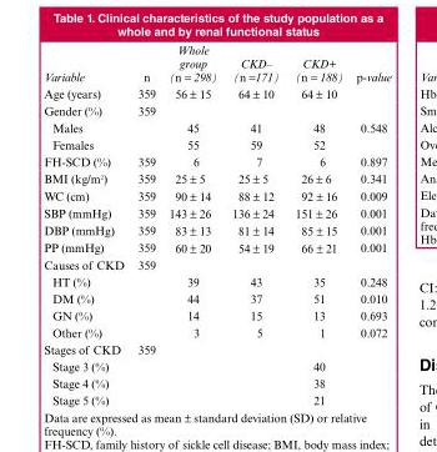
<table><thead><tr><td>Variable</td><td>n</td><td>Whole group (n = 298)</td><td>CKD– (n =171)</td><td>CKD+ (n = 188)</td><td>p-value</td></tr></thead><tbody><tr><td>Age (years)</td><td>359</td><td>56 ± 15</td><td>64 ± 10</td><td>64 ± 10</td><td></td></tr><tr><td>Gender (%)</td><td>359</td><td></td><td></td><td></td><td></td></tr><tr><td>Males</td><td></td><td>45</td><td>41</td><td>48</td><td>0.548</td></tr><tr><td>Females</td><td></td><td>55</td><td>59</td><td>52</td><td></td></tr><tr><td>FH-SCD (%)</td><td>359</td><td>6</td><td>7</td><td>6</td><td>0.897</td></tr><tr><td>BMI (kg/m<sup>2</sup>)</td><td>359</td><td>25 ± 5</td><td>25 ± 5</td><td>26 ± 6</td><td>0.341</td></tr><tr><td>WC (cm)</td><td>359</td><td>90 ± 14</td><td>88 ± 12</td><td>92 ± 16</td><td>0.009</td></tr><tr><td>SBP (mmHg)</td><td>359</td><td>143 ± 26</td><td>136 ± 24</td><td>151 ± 26</td><td>0.001</td></tr><tr><td>DBP (mmHg)</td><td>359</td><td>83 ± 13</td><td>81 ± 14</td><td>85 ± 15</td><td>0.001</td></tr><tr><td>PP (mmHg)</td><td>359</td><td>60 ± 20</td><td>54 ± 19</td><td>66 ± 21</td><td>0.001</td></tr><tr><td>Causes of CKD</td><td>359</td><td></td><td></td><td></td><td></td></tr><tr><td>HT (%)</td><td></td><td>39</td><td>43</td><td>35</td><td>0.248</td></tr><tr><td>DM (%)</td><td></td><td>44</td><td>37</td><td>51</td><td>0.010</td></tr><tr><td>GN (%)</td><td></td><td>14</td><td>15</td><td>13</td><td>0.693</td></tr><tr><td>Other (%)</td><td></td><td>3</td><td>5</td><td>1</td><td>0.072</td></tr><tr><td>Stages of CKD</td><td>359</td><td></td><td></td><td></td><td></td></tr><tr><td>Stage 3 (%)</td><td></td><td></td><td></td><td>40</td><td></td></tr><tr><td>Stage 4 (%)</td><td></td><td></td><td></td><td>38</td><td></td></tr><tr><td>Stage 5 (%)</td><td></td><td></td><td></td><td>21</td><td></td></tr></tbody></table>